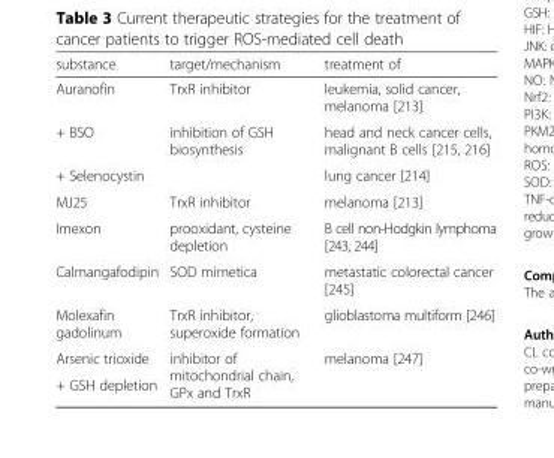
<table><thead><tr><td>substance</td><td>target/mechanism</td><td>treatment of</td></tr></thead><tbody><tr><td>Auranofin</td><td>TrxR inhibitor</td><td>leukemia, solid cancer, melanoma [213]</td></tr><tr><td>+ BSO</td><td>inhibition of GSH biosynthesis</td><td>head and neck cancer cells, malignant B cells [215, 216]</td></tr><tr><td>+ Selenocystin</td><td></td><td>lung cancer [214]</td></tr><tr><td>MJ25</td><td>TrxR inhibitor</td><td>melanoma [213]</td></tr><tr><td>Imexon</td><td>prooxidant, cysteine depletion</td><td>B cell non-Hodgkin lymphoma [243, 244]</td></tr><tr><td>Calmangafodipin</td><td>SOD mimetica</td><td>metastatic colorectal cancer [245]</td></tr><tr><td>Molexafin gadolinum</td><td>TrxR inhibitor, superoxide formation</td><td>glioblastoma multiform [246]</td></tr><tr><td>Arsenic trioxide</td><td rowspan="2">inhibitor of mitochondrial chain, GPx and TrxR</td><td rowspan="2">melanoma [247]</td></tr><tr><td>+ GSH depletion</td></tr></tbody></table>